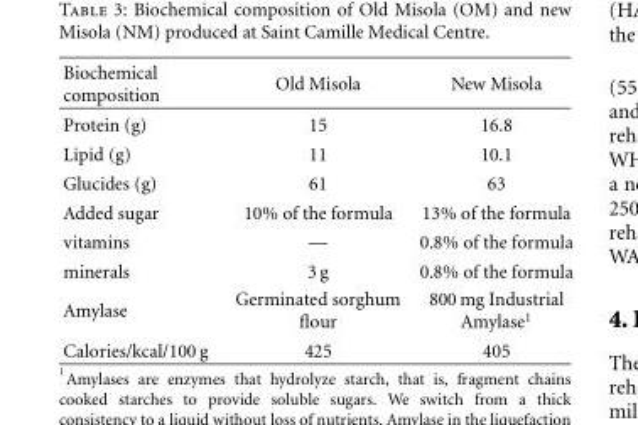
<table><thead><tr><td>Biochemical composition</td><td>Old Misola</td><td>New Misola</td></tr></thead><tbody><tr><td>Protein (g)</td><td>15</td><td>16.8</td></tr><tr><td>Lipid (g)</td><td>11</td><td>10.1</td></tr><tr><td>Glucides (g)</td><td>61</td><td>63</td></tr><tr><td>Added sugar</td><td>10% of the formula</td><td>13% of the formula</td></tr><tr><td>vitamins</td><td>—</td><td>0.8% of the formula</td></tr><tr><td>minerals</td><td>3 g</td><td>0.8% of the formula</td></tr><tr><td>Amylase</td><td>Germinated sorghum flour</td><td>800 mg Industrial Amylase<sup>1</sup></td></tr><tr><td>Calories/kcal/100 g</td><td>425</td><td>405</td></tr></tbody></table>